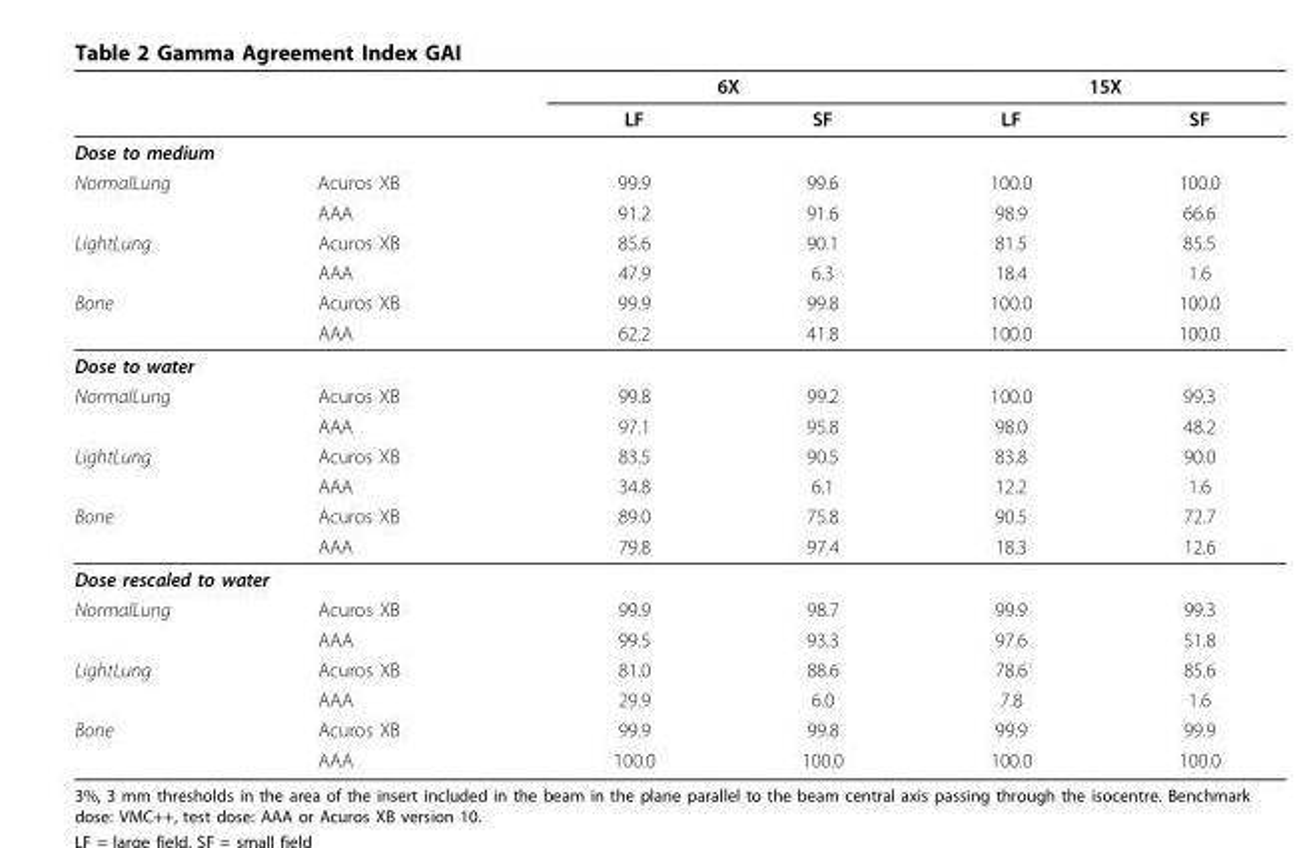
<table><thead><tr><td rowspan="2"></td><td rowspan="2"></td><td colspan="2">6X</td><td colspan="2">15X</td></tr><tr><td>LF</td><td>SF</td><td>LF</td><td>SF</td></tr></thead><tbody><tr><td colspan="6">Dose to medium</td></tr><tr><td rowspan="2">NormalLung</td><td>Acuros XB</td><td>99.9</td><td>99.6</td><td>100.0</td><td>100.0</td></tr><tr><td>AAA</td><td>91.2</td><td>91.6</td><td>98.9</td><td>66.6</td></tr><tr><td rowspan="2">LightLung</td><td>Acuros XB</td><td>85.6</td><td>90.1</td><td>81.5</td><td>85.5</td></tr><tr><td>AAA</td><td>47.9</td><td>6.3</td><td>18.4</td><td>1.6</td></tr><tr><td rowspan="2">Bone</td><td>Acuros XB</td><td>99.9</td><td>99.8</td><td>100.0</td><td>100.0</td></tr><tr><td>AAA</td><td>62.2</td><td>41.8</td><td>100.0</td><td>100.0</td></tr><tr><td colspan="6">Dose to water</td></tr><tr><td rowspan="2">NormalLung</td><td>Acuros XB</td><td>99.8</td><td>99.2</td><td>100.0</td><td>99.3</td></tr><tr><td>AAA</td><td>97.1</td><td>95.8</td><td>98.0</td><td>48.2</td></tr><tr><td rowspan="2">LightLung</td><td>Acuros XB</td><td>83.5</td><td>90.5</td><td>83.8</td><td>90.0</td></tr><tr><td>AAA</td><td>34.8</td><td>6.1</td><td>12.2</td><td>1.6</td></tr><tr><td rowspan="2">Bone</td><td>Acuros XB</td><td>89.0</td><td>75.8</td><td>90.5</td><td>72.7</td></tr><tr><td>AAA</td><td>79.8</td><td>97.4</td><td>18.3</td><td>12.6</td></tr><tr><td colspan="6">Dose rescaled to water</td></tr><tr><td rowspan="2">NormalLung</td><td>Acuros XB</td><td>99.9</td><td>98.7</td><td>99.9</td><td>99.3</td></tr><tr><td>AAA</td><td>99.5</td><td>93.3</td><td>97.6</td><td>51.8</td></tr><tr><td rowspan="2">LightLung</td><td>Acuros XB</td><td>81.0</td><td>88.6</td><td>78.6</td><td>85.6</td></tr><tr><td>AAA</td><td>29.9</td><td>6.0</td><td>7.8</td><td>1.6</td></tr><tr><td rowspan="2">Bone</td><td>Acuros XB</td><td>99.9</td><td>99.8</td><td>99.9</td><td>99.9</td></tr><tr><td>AAA</td><td>100.0</td><td>100.0</td><td>100.0</td><td>100.0</td></tr></tbody></table>